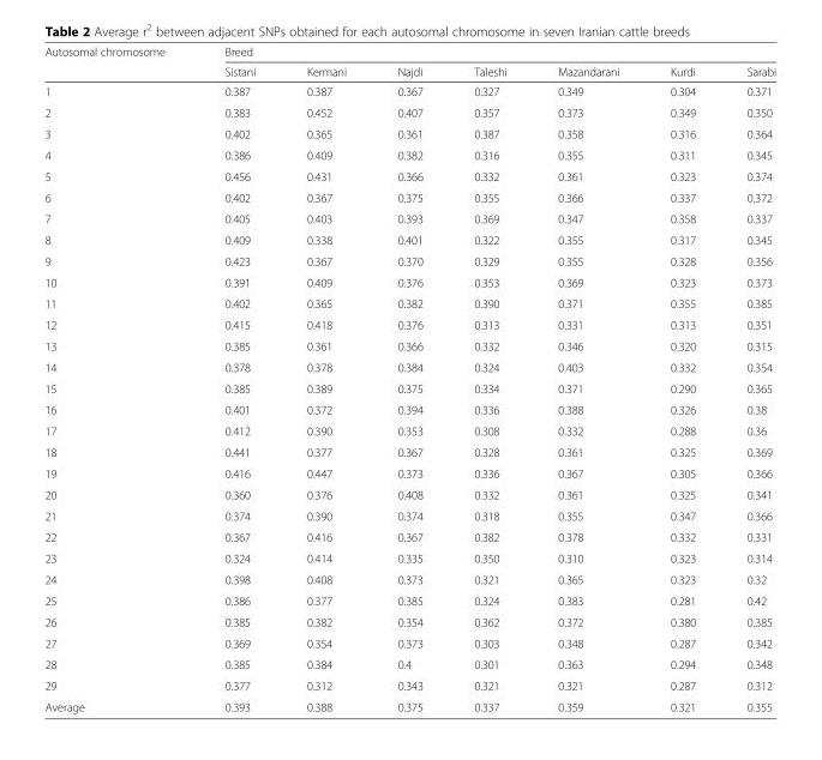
<table><thead><tr><td rowspan="2">Autosomal chromosome</td><td colspan="7">Breed</td></tr><tr><td>Sistani</td><td>Kermani</td><td>Najdi</td><td>Taleshi</td><td>Mazandarani</td><td>Kurdi</td><td>Sarabi</td></tr></thead><tbody><tr><td>1</td><td>0.387</td><td>0.387</td><td>0.367</td><td>0.327</td><td>0.349</td><td>0.304</td><td>0.371</td></tr><tr><td>2</td><td>0.383</td><td>0.452</td><td>0.407</td><td>0.357</td><td>0.373</td><td>0.349</td><td>0.350</td></tr><tr><td>3</td><td>0.402</td><td>0.365</td><td>0.361</td><td>0.387</td><td>0.358</td><td>0.316</td><td>0.364</td></tr><tr><td>4</td><td>0.386</td><td>0.409</td><td>0.382</td><td>0.316</td><td>0.355</td><td>0.311</td><td>0.345</td></tr><tr><td>5</td><td>0.456</td><td>0.431</td><td>0.366</td><td>0.332</td><td>0.361</td><td>0.323</td><td>0.374</td></tr><tr><td>6</td><td>0.402</td><td>0.367</td><td>0.375</td><td>0.355</td><td>0.366</td><td>0.337</td><td>0.372</td></tr><tr><td>7</td><td>0.405</td><td>0.403</td><td>0.393</td><td>0.369</td><td>0.347</td><td>0.358</td><td>0.337</td></tr><tr><td>8</td><td>0.409</td><td>0.338</td><td>0.401</td><td>0.322</td><td>0.355</td><td>0.317</td><td>0.345</td></tr><tr><td>9</td><td>0.423</td><td>0.367</td><td>0.370</td><td>0.329</td><td>0.355</td><td>0.328</td><td>0.356</td></tr><tr><td>10</td><td>0.391</td><td>0.409</td><td>0.376</td><td>0.353</td><td>0.369</td><td>0.323</td><td>0.373</td></tr><tr><td>11</td><td>0.402</td><td>0.365</td><td>0.382</td><td>0.390</td><td>0.371</td><td>0.355</td><td>0.385</td></tr><tr><td>12</td><td>0.415</td><td>0.418</td><td>0.376</td><td>0.313</td><td>0.331</td><td>0.313</td><td>0.351</td></tr><tr><td>13</td><td>0.385</td><td>0.361</td><td>0.366</td><td>0.332</td><td>0.346</td><td>0.320</td><td>0.315</td></tr><tr><td>14</td><td>0.378</td><td>0.378</td><td>0.384</td><td>0.324</td><td>0.403</td><td>0.332</td><td>0.354</td></tr><tr><td>15</td><td>0.385</td><td>0.389</td><td>0.375</td><td>0.334</td><td>0.371</td><td>0.290</td><td>0.365</td></tr><tr><td>16</td><td>0.401</td><td>0.372</td><td>0.394</td><td>0.336</td><td>0.388</td><td>0.326</td><td>0.38</td></tr><tr><td>17</td><td>0.412</td><td>0.390</td><td>0.353</td><td>0.308</td><td>0.332</td><td>0.288</td><td>0.36</td></tr><tr><td>18</td><td>0.441</td><td>0.377</td><td>0.367</td><td>0.328</td><td>0.361</td><td>0.325</td><td>0.369</td></tr><tr><td>19</td><td>0.416</td><td>0.447</td><td>0.373</td><td>0.336</td><td>0.367</td><td>0.305</td><td>0.366</td></tr><tr><td>20</td><td>0.360</td><td>0.376</td><td>0.408</td><td>0.332</td><td>0.361</td><td>0.325</td><td>0.341</td></tr><tr><td>21</td><td>0.374</td><td>0.390</td><td>0.374</td><td>0.318</td><td>0.355</td><td>0.347</td><td>0.366</td></tr><tr><td>22</td><td>0.367</td><td>0.416</td><td>0.367</td><td>0.382</td><td>0.378</td><td>0.332</td><td>0.331</td></tr><tr><td>23</td><td>0.324</td><td>0.414</td><td>0.335</td><td>0.350</td><td>0.310</td><td>0.323</td><td>0.314</td></tr><tr><td>24</td><td>0.398</td><td>0.408</td><td>0.373</td><td>0.321</td><td>0.365</td><td>0.323</td><td>0.32</td></tr><tr><td>25</td><td>0.386</td><td>0.377</td><td>0.385</td><td>0.324</td><td>0.383</td><td>0.281</td><td>0.42</td></tr><tr><td>26</td><td>0.385</td><td>0.382</td><td>0.354</td><td>0.362</td><td>0.372</td><td>0.380</td><td>0.385</td></tr><tr><td>27</td><td>0.369</td><td>0.354</td><td>0.373</td><td>0.303</td><td>0.348</td><td>0.287</td><td>0.342</td></tr><tr><td>28</td><td>0.385</td><td>0.384</td><td>0.4</td><td>0.301</td><td>0.363</td><td>0.294</td><td>0.348</td></tr><tr><td>29</td><td>0.377</td><td>0.312</td><td>0.343</td><td>0.321</td><td>0.321</td><td>0.287</td><td>0.312</td></tr><tr><td>Average</td><td>0.393</td><td>0.388</td><td>0.375</td><td>0.337</td><td>0.359</td><td>0.321</td><td>0.355</td></tr></tbody></table>